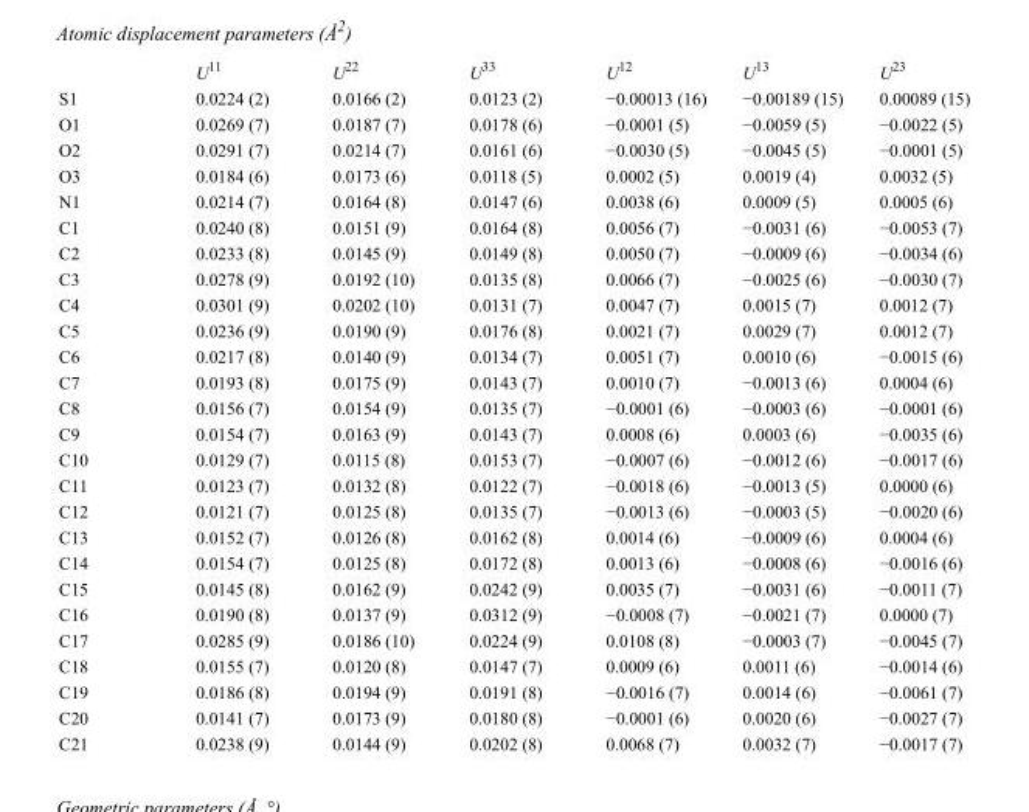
<table><thead><tr><td></td><td>U<sup>11</sup></td><td>U<sup>22</sup></td><td>U<sup>33</sup></td><td>U<sup>12</sup></td><td>U<sup>13</sup></td><td>U<sup>23</sup></td></tr></thead><tbody><tr><td>S1</td><td>0.0224 (2)</td><td>0.0166 (2)</td><td>0.0123 (2)</td><td>−0.00013 (16)</td><td>−0.00189 (15)</td><td>0.00089 (15)</td></tr><tr><td>O1</td><td>0.0269 (7)</td><td>0.0187 (7)</td><td>0.0178 (6)</td><td>−0.0001 (5)</td><td>−0.0059 (5)</td><td>−0.0022 (5)</td></tr><tr><td>O2</td><td>0.0291 (7)</td><td>0.0214 (7)</td><td>0.0161 (6)</td><td>−0.0030 (5)</td><td>−0.0045 (5)</td><td>−0.0001 (5)</td></tr><tr><td>O3</td><td>0.0184 (6)</td><td>0.0173 (6)</td><td>0.0118 (5)</td><td>0.0002 (5)</td><td>0.0019 (4)</td><td>0.0032 (5)</td></tr><tr><td>N1</td><td>0.0214 (7)</td><td>0.0164 (8)</td><td>0.0147 (6)</td><td>0.0038 (6)</td><td>0.0009 (5)</td><td>0.0005 (6)</td></tr><tr><td>C1</td><td>0.0240 (8)</td><td>0.0151 (9)</td><td>0.0164 (8)</td><td>0.0056 (7)</td><td>−0.0031 (6)</td><td>−0.0053 (7)</td></tr><tr><td>C2</td><td>0.0233 (8)</td><td>0.0145 (9)</td><td>0.0149 (8)</td><td>0.0050 (7)</td><td>−0.0009 (6)</td><td>−0.0034 (6)</td></tr><tr><td>C3</td><td>0.0278 (9)</td><td>0.0192 (10)</td><td>0.0135 (8)</td><td>0.0066 (7)</td><td>−0.0025 (6)</td><td>−0.0030 (7)</td></tr><tr><td>C4</td><td>0.0301 (9)</td><td>0.0202 (10)</td><td>0.0131 (7)</td><td>0.0047 (7)</td><td>0.0015 (7)</td><td>0.0012 (7)</td></tr><tr><td>C5</td><td>0.0236 (9)</td><td>0.0190 (9)</td><td>0.0176 (8)</td><td>0.0021 (7)</td><td>0.0029 (7)</td><td>0.0012 (7)</td></tr><tr><td>C6</td><td>0.0217 (8)</td><td>0.0140 (9)</td><td>0.0134 (7)</td><td>0.0051 (7)</td><td>0.0010 (6)</td><td>−0.0015 (6)</td></tr><tr><td>C7</td><td>0.0193 (8)</td><td>0.0175 (9)</td><td>0.0143 (7)</td><td>0.0010 (7)</td><td>−0.0013 (6)</td><td>0.0004 (6)</td></tr><tr><td>C8</td><td>0.0156 (7)</td><td>0.0154 (9)</td><td>0.0135 (7)</td><td>−0.0001 (6)</td><td>−0.0003 (6)</td><td>−0.0001 (6)</td></tr><tr><td>C9</td><td>0.0154 (7)</td><td>0.0163 (9)</td><td>0.0143 (7)</td><td>0.0008 (6)</td><td>0.0003 (6)</td><td>−0.0035 (6)</td></tr><tr><td>C10</td><td>0.0129 (7)</td><td>0.0115 (8)</td><td>0.0153 (7)</td><td>−0.0007 (6)</td><td>−0.0012 (6)</td><td>−0.0017 (6)</td></tr><tr><td>C11</td><td>0.0123 (7)</td><td>0.0132 (8)</td><td>0.0122 (7)</td><td>−0.0018 (6)</td><td>−0.0013 (5)</td><td>0.0000 (6)</td></tr><tr><td>C12</td><td>0.0121 (7)</td><td>0.0125 (8)</td><td>0.0135 (7)</td><td>−0.0013 (6)</td><td>−0.0003 (5)</td><td>−0.0020 (6)</td></tr><tr><td>C13</td><td>0.0152 (7)</td><td>0.0126 (8)</td><td>0.0162 (8)</td><td>0.0014 (6)</td><td>−0.0009 (6)</td><td>0.0004 (6)</td></tr><tr><td>C14</td><td>0.0154 (7)</td><td>0.0125 (8)</td><td>0.0172 (8)</td><td>0.0013 (6)</td><td>−0.0008 (6)</td><td>−0.0016 (6)</td></tr><tr><td>C15</td><td>0.0145 (8)</td><td>0.0162 (9)</td><td>0.0242 (9)</td><td>0.0035 (7)</td><td>−0.0031 (6)</td><td>−0.0011 (7)</td></tr><tr><td>C16</td><td>0.0190 (8)</td><td>0.0137 (9)</td><td>0.0312 (9)</td><td>−0.0008 (7)</td><td>−0.0021 (7)</td><td>0.0000 (7)</td></tr><tr><td>C17</td><td>0.0285 (9)</td><td>0.0186 (10)</td><td>0.0224 (9)</td><td>0.0108 (8)</td><td>−0.0003 (7)</td><td>−0.0045 (7)</td></tr><tr><td>C18</td><td>0.0155 (7)</td><td>0.0120 (8)</td><td>0.0147 (7)</td><td>0.0009 (6)</td><td>0.0011 (6)</td><td>−0.0014 (6)</td></tr><tr><td>C19</td><td>0.0186 (8)</td><td>0.0194 (9)</td><td>0.0191 (8)</td><td>−0.0016 (7)</td><td>0.0014 (6)</td><td>−0.0061 (7)</td></tr><tr><td>C20</td><td>0.0141 (7)</td><td>0.0173 (9)</td><td>0.0180 (8)</td><td>−0.0001 (6)</td><td>0.0020 (6)</td><td>−0.0027 (7)</td></tr><tr><td>C21</td><td>0.0238 (9)</td><td>0.0144 (9)</td><td>0.0202 (8)</td><td>0.0068 (7)</td><td>0.0032 (7)</td><td>−0.0017 (7)</td></tr></tbody></table>